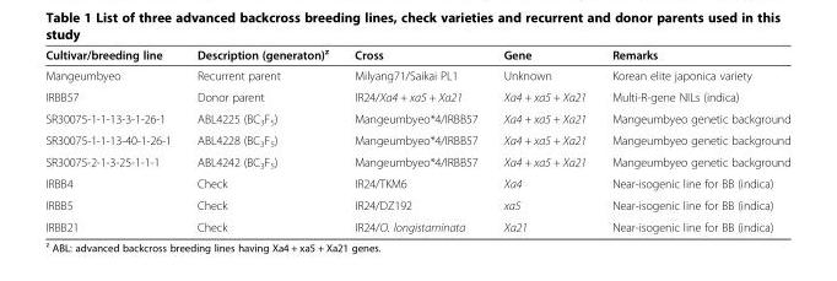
<table><thead><tr><td>Cultivar/breeding line</td><td>Description (generaton)<sup>z</sup></td><td>Cross</td><td>Gene</td><td>Remarks</td></tr></thead><tbody><tr><td>Mangeumbyeo</td><td>Recurrent parent</td><td>Milyang71/Saikai PL1</td><td>Unknown</td><td>Korean elite japonica variety</td></tr><tr><td>IRBB57</td><td>Donor parent</td><td>IR24/Xa4 + xa5 + Xa21</td><td>Xa4 + xa5 + Xa21</td><td>Multi-R-gene NILs (indica)</td></tr><tr><td>SR30075-1-1-13-3-1-26-1</td><td>ABL4225 (BC<sub>3</sub>F<sub>5</sub>)</td><td>Mangeumbyeo*4/IRBB57</td><td>Xa4 + xa5 + Xa21</td><td>Mangeumbyeo genetic background</td></tr><tr><td>SR30075-1-1-13-40-1-26-1</td><td>ABL4228 (BC<sub>3</sub>F<sub>5</sub>)</td><td>Mangeumbyeo*4/IRBB57</td><td>Xa4 + xa5 + Xa21</td><td>Mangeumbyeo genetic background</td></tr><tr><td>SR30075-2-1-3-25-1-1-1</td><td>ABL4242 (BC<sub>3</sub>F<sub>5</sub>)</td><td>Mangeumbyeo*4/IRBB57</td><td>Xa4 + xa5 + Xa21</td><td>Mangeumbyeo genetic background</td></tr><tr><td>IRBB4</td><td>Check</td><td>IR24/TKM6</td><td>Xa4</td><td>Near-isogenic line for BB (indica)</td></tr><tr><td>IRBB5</td><td>Check</td><td>IR24/DZ192</td><td>xa5</td><td>Near-isogenic line for BB (indica)</td></tr><tr><td>IRBB21</td><td>Check</td><td>IR24/O. longistaminata</td><td>Xa21</td><td>Near-isogenic line for BB (indica)</td></tr></tbody></table>